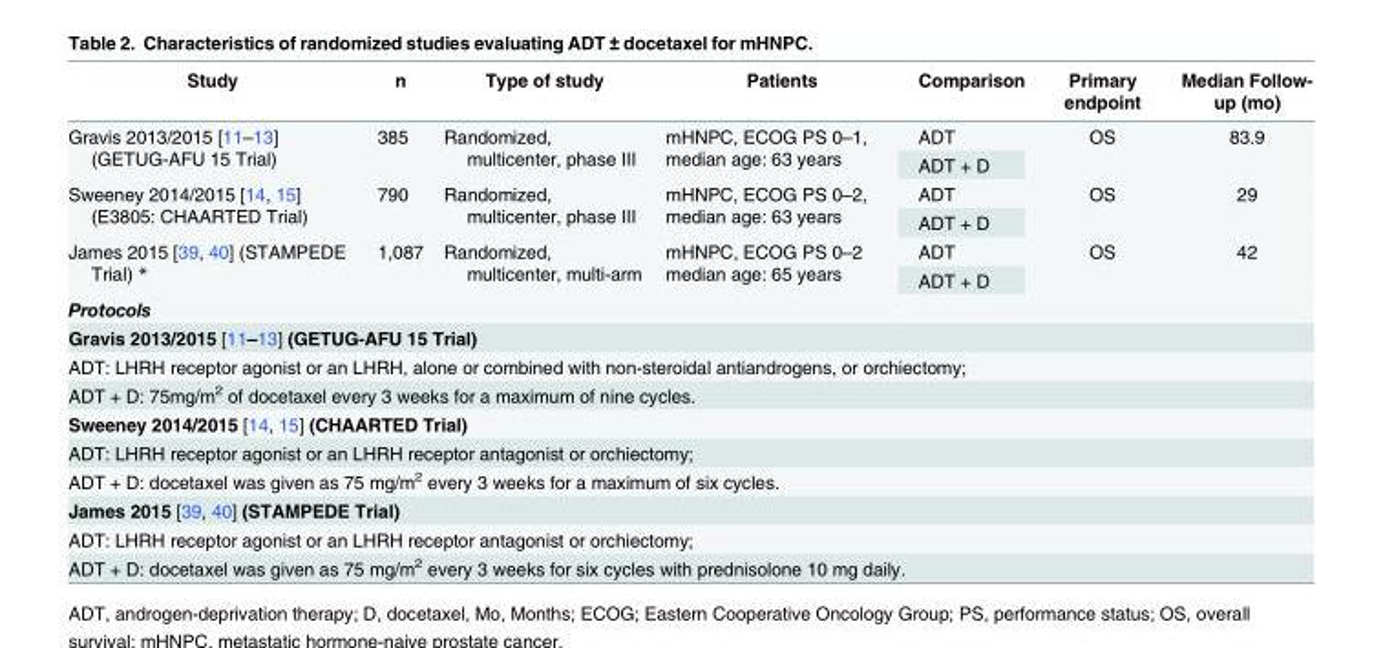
<table><thead><tr><td>Study</td><td>n</td><td>Type of study</td><td>Patients</td><td>Comparison</td><td>Primary endpoint</td><td>Median Follow- up (mo)</td></tr></thead><tbody><tr><td rowspan="2">Gravis 2013/2015 [11–13] (GETUG-AFU 15 Trial)</td><td rowspan="2">385</td><td rowspan="2">Randomized, multicenter, phase III</td><td rowspan="2">mHNPC, ECOG PS 0–1, median age: 63 years</td><td>ADT</td><td rowspan="2">OS</td><td rowspan="2">83.9</td></tr><tr><td>ADT + D</td></tr><tr><td rowspan="2">Sweeney 2014/2015 [14, 15] (E3805: CHAARTED Trial)</td><td rowspan="2">790</td><td rowspan="2">Randomized, multicenter, phase III</td><td rowspan="2">mHNPC, ECOG PS 0–2, median age: 63 years</td><td>ADT</td><td rowspan="2">OS</td><td rowspan="2">29</td></tr><tr><td>ADT + D</td></tr><tr><td rowspan="2">James 2015 [39, 40] (STAMPEDE Trial) *</td><td rowspan="2">1,087</td><td rowspan="2">Randomized, multicenter, multi-arm</td><td rowspan="2">mHNPC, ECOG PS 0–2 median age: 65 years</td><td>ADT</td><td rowspan="2">OS</td><td rowspan="2">42</td></tr><tr><td>ADT + D</td></tr><tr><td colspan="7">Protocols</td></tr><tr><td colspan="7">Gravis 2013/2015 [11–13] (GETUG-AFU 15 Trial)</td></tr><tr><td colspan="7">ADT: LHRH receptor agonist or an LHRH, alone or combined with non-steroidal antiandrogens, or orchiectomy;</td></tr><tr><td colspan="7">ADT + D: 75mg/m<sup>2</sup> of docetaxel every 3 weeks for a maximum of nine cycles.</td></tr><tr><td colspan="7">Sweeney 2014/2015 [14, 15] (CHAARTED Trial)</td></tr><tr><td colspan="7">ADT: LHRH receptor agonist or an LHRH receptor antagonist or orchiectomy;</td></tr><tr><td colspan="7">ADT + D: docetaxel was given as 75 mg/m<sup>2</sup> every 3 weeks for a maximum of six cycles.</td></tr><tr><td colspan="7">James 2015 [39, 40] (STAMPEDE Trial)</td></tr><tr><td colspan="7">ADT: LHRH receptor agonist or an LHRH receptor antagonist or orchiectomy;</td></tr><tr><td colspan="7">ADT + D: docetaxel was given as 75 mg/m<sup>2</sup> every 3 weeks for six cycles with prednisolone 10 mg daily.</td></tr></tbody></table>